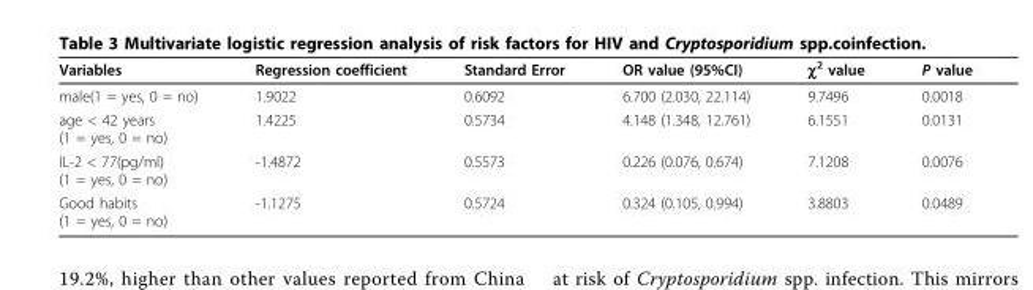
<table><thead><tr><td>Variables</td><td>Regression coefficient</td><td>Standard Error</td><td>OR value (95%CI)</td><td>χ<sup>2</sup> value</td><td>P value</td></tr></thead><tbody><tr><td>male(1 = yes, 0 = no)</td><td>1.9022</td><td>0.6092</td><td>6.700 (2.030, 22.114)</td><td>9.7496</td><td>0.0018</td></tr><tr><td>age &lt; 42 years (1 = yes, 0 = no)</td><td>1.4225</td><td>0.5734</td><td>4.148 (1.348, 12.761)</td><td>6.1551</td><td>0.0131</td></tr><tr><td>IL-2 &lt; 77(pg/ml) (1 = yes, 0 = no)</td><td>-1.4872</td><td>0.5573</td><td>0.226 (0.076, 0.674)</td><td>7.1208</td><td>0.0076</td></tr><tr><td>Good habits (1 = yes, 0 = no)</td><td>-1.1275</td><td>0.5724</td><td>0.324 (0.105, 0.994)</td><td>3.8803</td><td>0.0489</td></tr></tbody></table>